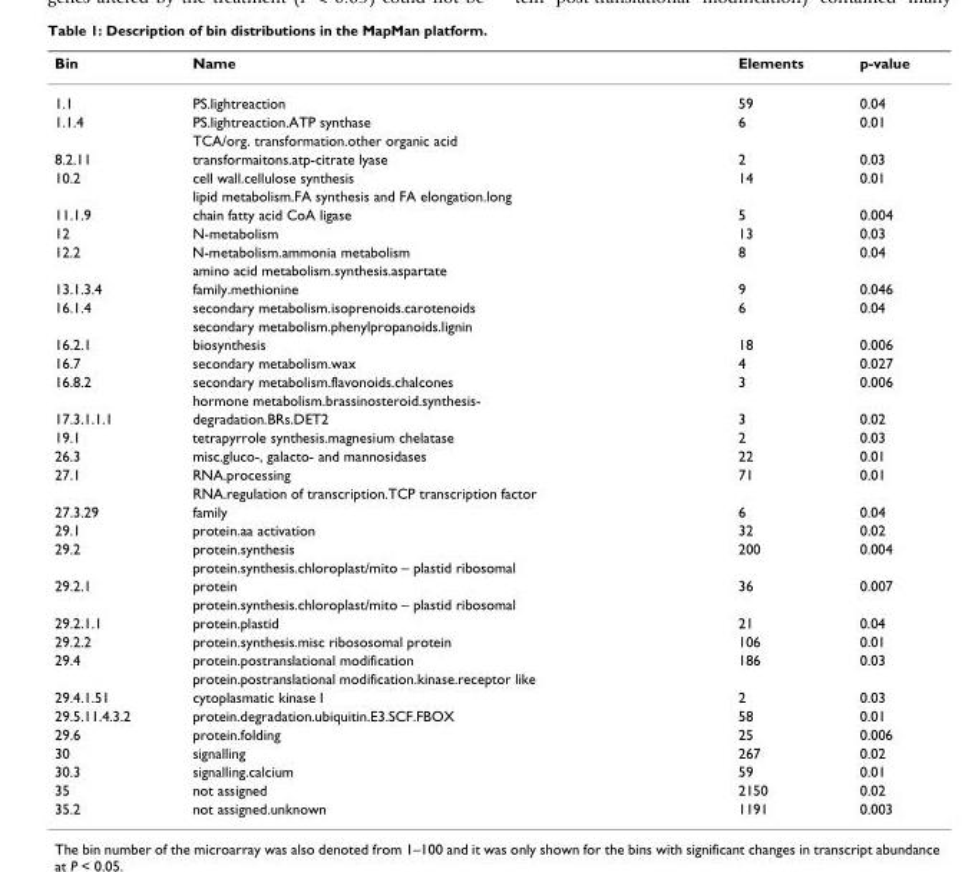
<table><thead><tr><td>Bin</td><td>Name</td><td>Elements</td><td>p-value</td></tr></thead><tbody><tr><td>1.1</td><td>PS.lightreaction</td><td>59</td><td>0.04</td></tr><tr><td rowspan="2">1.1.4</td><td>PS.lightreaction.ATP synthase</td><td>6</td><td>0.01</td></tr><tr><td>TCA/org. transformation.other organic acid</td><td></td><td></td></tr><tr><td>8.2.11</td><td>transformaitons.atp-citrate lyase</td><td>2</td><td>0.03</td></tr><tr><td rowspan="2">10.2</td><td>cell wall.cellulose synthesis</td><td>14</td><td>0.01</td></tr><tr><td>lipid metabolism.FA synthesis and FA elongation.long</td><td></td><td></td></tr><tr><td>11.1.9</td><td>chain fatty acid CoA ligase</td><td>5</td><td>0.004</td></tr><tr><td>12</td><td>N-metabolism</td><td>13</td><td>0.03</td></tr><tr><td rowspan="2">12.2</td><td>N-metabolism.ammonia metabolism</td><td>8</td><td>0.04</td></tr><tr><td>amino acid metabolism.synthesis.aspartate</td><td></td><td></td></tr><tr><td>13.1.3.4</td><td>family.methionine</td><td>9</td><td>0.046</td></tr><tr><td rowspan="2">16.1.4</td><td>secondary metabolism.isoprenoids.carotenoids</td><td>6</td><td>0.04</td></tr><tr><td>secondary metabolism.phenylpropanoids.lignin</td><td></td><td></td></tr><tr><td>16.2.1</td><td>biosynthesis</td><td>18</td><td>0.006</td></tr><tr><td>16.7</td><td>secondary metabolism.wax</td><td>4</td><td>0.027</td></tr><tr><td rowspan="2">16.8.2</td><td>secondary metabolism.flavonoids.chalcones</td><td>3</td><td>0.006</td></tr><tr><td>hormone metabolism.brassinosteroid.synthesis-</td><td></td><td></td></tr><tr><td>17.3.1.1.1</td><td>degradation.BRs.DET2</td><td>3</td><td>0.02</td></tr><tr><td>19.1</td><td>tetrapyrrole synthesis.magnesium chelatase</td><td>2</td><td>0.03</td></tr><tr><td>26.3</td><td>misc.gluco-, galacto- and mannosidases</td><td>22</td><td>0.01</td></tr><tr><td rowspan="2">27.1</td><td>RNA.processing</td><td>71</td><td>0.01</td></tr><tr><td>RNA.regulation of transcription.TCP transcription factor</td><td></td><td></td></tr><tr><td>27.3.29</td><td>family</td><td>6</td><td>0.04</td></tr><tr><td>29.1</td><td>protein.aa activation</td><td>32</td><td>0.02</td></tr><tr><td rowspan="2">29.2</td><td>protein.synthesis</td><td>200</td><td>0.004</td></tr><tr><td>protein.synthesis.chloroplast/mito – plastid ribosomal</td><td></td><td></td></tr><tr><td rowspan="2">29.2.1</td><td>protein</td><td>36</td><td>0.007</td></tr><tr><td>protein.synthesis.chloroplast/mito – plastid ribosomal</td><td></td><td></td></tr><tr><td>29.2.1.1</td><td>protein.plastid</td><td>21</td><td>0.04</td></tr><tr><td>29.2.2</td><td>protein.synthesis.misc ribososomal protein</td><td>106</td><td>0.01</td></tr><tr><td rowspan="2">29.4</td><td>protein.postranslational modification</td><td>186</td><td>0.03</td></tr><tr><td>protein.postranslational modification.kinase.receptor like</td><td></td><td></td></tr><tr><td>29.4.1.51</td><td>cytoplasmatic kinase I</td><td>2</td><td>0.03</td></tr><tr><td>29.5.11.4.3.2</td><td>protein.degradation.ubiquitin.E3.SCF.FBOX</td><td>58</td><td>0.01</td></tr><tr><td>29.6</td><td>protein.folding</td><td>25</td><td>0.006</td></tr><tr><td>30</td><td>signalling</td><td>267</td><td>0.02</td></tr><tr><td>30.3</td><td>signalling.calcium</td><td>59</td><td>0.01</td></tr><tr><td>35</td><td>not assigned</td><td>2150</td><td>0.02</td></tr><tr><td>35.2</td><td>not assigned.unknown</td><td>1191</td><td>0.003</td></tr></tbody></table>